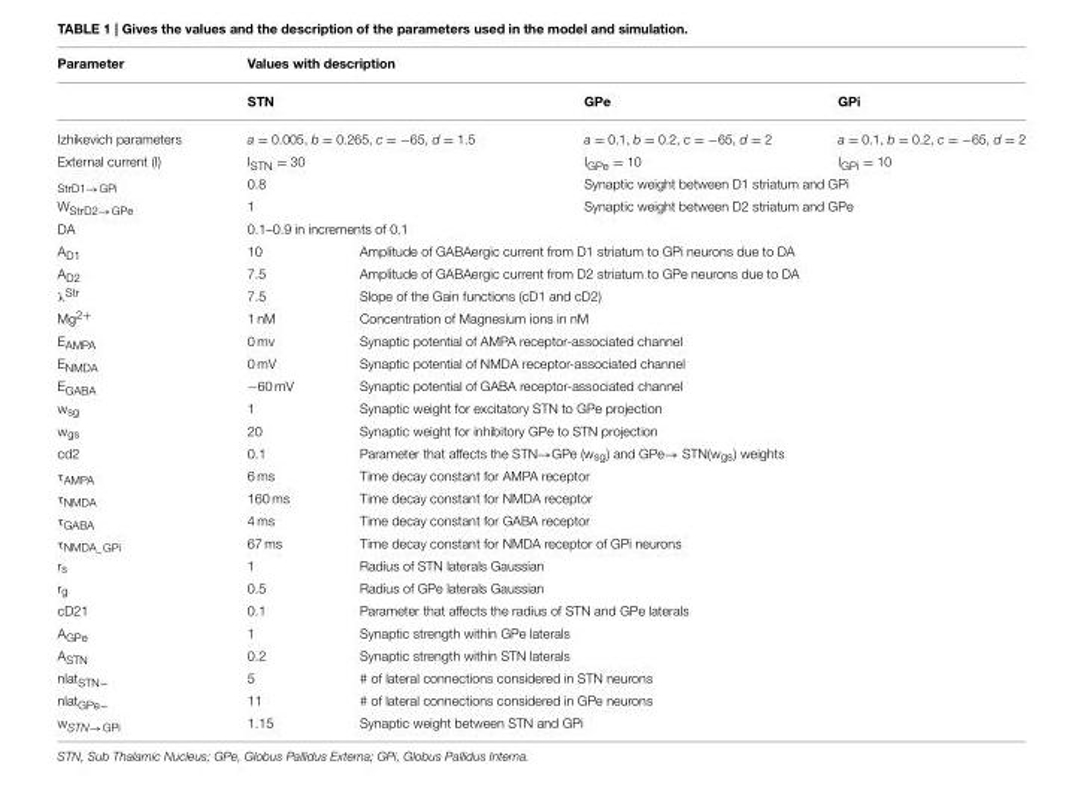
<table><thead><tr><td>Parameter</td><td colspan="4">Values with description</td></tr></thead><tbody><tr><td></td><td colspan="2">STN</td><td>GPe</td><td>GPi</td></tr><tr><td>Izhikevich parameters</td><td colspan="2">a = 0.005, b = 0.265, c = −65, d = 1.5</td><td>a = 0.1, b = 0.2, c = −65, d = 2</td><td>a = 0.1, b = 0.2, c = −65, d = 2</td></tr><tr><td>External current (I)</td><td colspan="2">I<sub>STN</sub> = 30</td><td>I<sub>GPe</sub> = 10</td><td>I<sub>GPi</sub> = 10</td></tr><tr><td>StrD1→GPi</td><td colspan="2">0.8</td><td colspan="2">Synaptic weight between D1 striatum and GPi</td></tr><tr><td>W<sub>StrD2→GPe</sub></td><td colspan="2">1</td><td colspan="2">Synaptic weight between D2 striatum and GPe</td></tr><tr><td>DA</td><td colspan="4">0.1–0.9 in increments of 0.1</td></tr><tr><td>A<sub>D1</sub></td><td>10</td><td colspan="2">Amplitude of GABAergic current from D1 striatum to GPi neurons due to DA</td><td></td></tr><tr><td>A<sub>D2</sub></td><td>7.5</td><td colspan="2">Amplitude of GABAergic current from D2 striatum to GPe neurons due to DA</td><td></td></tr><tr><td>λ<sup>Str</sup></td><td>7.5</td><td colspan="2">Slope of the Gain functions (cD1 and cD2)</td><td></td></tr><tr><td>Mg<sup>2+</sup></td><td>1 nM</td><td colspan="2">Concentration of Magnesium ions in nM</td><td></td></tr><tr><td>E<sub>AMPA</sub></td><td>0 mv</td><td colspan="2">Synaptic potential of AMPA receptor-associated channel</td><td></td></tr><tr><td>E<sub>NMDA</sub></td><td>0 mV</td><td colspan="2">Synaptic potential of NMDA receptor-associated channel</td><td></td></tr><tr><td>E<sub>GABA</sub></td><td>−60 mV</td><td colspan="2">Synaptic potential of GABA receptor-associated channel</td><td></td></tr><tr><td>w<sub>sg</sub></td><td>1</td><td colspan="2">Synaptic weight for excitatory STN to GPe projection</td><td></td></tr><tr><td>w<sub>gs</sub></td><td>20</td><td colspan="2">Synaptic weight for inhibitory GPe to STN projection</td><td></td></tr><tr><td>cd2</td><td>0.1</td><td colspan="2">Parameter that affects the STN→GPe (w<sub>sg</sub>) and GPe→ STN(w<sub>gs</sub>) weights</td><td></td></tr><tr><td>τ<sub>AMPA</sub></td><td>6 ms</td><td colspan="2">Time decay constant for AMPA receptor</td><td></td></tr><tr><td>τ<sub>NMDA</sub></td><td>160 ms</td><td colspan="2">Time decay constant for NMDA receptor</td><td></td></tr><tr><td>τ<sub>GABA</sub></td><td>4 ms</td><td colspan="2">Time decay constant for GABA receptor</td><td></td></tr><tr><td>τ<sub>NMDA_GPi</sub></td><td>67 ms</td><td colspan="2">Time decay constant for NMDA receptor of GPi neurons</td><td></td></tr><tr><td>r<sub>s</sub></td><td>1</td><td colspan="2">Radius of STN laterals Gaussian</td><td></td></tr><tr><td>r<sub>g</sub></td><td>0.5</td><td colspan="2">Radius of GPe laterals Gaussian</td><td></td></tr><tr><td>cD21</td><td>0.1</td><td colspan="2">Parameter that affects the radius of STN and GPe laterals</td><td></td></tr><tr><td>A<sub>GPe</sub></td><td>1</td><td colspan="2">Synaptic strength within GPe laterals</td><td></td></tr><tr><td>A<sub>STN</sub></td><td>0.2</td><td colspan="2">Synaptic strength within STN laterals</td><td></td></tr><tr><td>nlat<sub>STN−</sub></td><td>5</td><td colspan="2"># of lateral connections considered in STN neurons</td><td></td></tr><tr><td>nlat<sub>GPe−</sub></td><td>11</td><td colspan="2"># of lateral connections considered in GPe neurons</td><td></td></tr><tr><td>w<sub>STN→GPi</sub></td><td>1.15</td><td colspan="2">Synaptic weight between STN and GPi</td><td></td></tr></tbody></table>